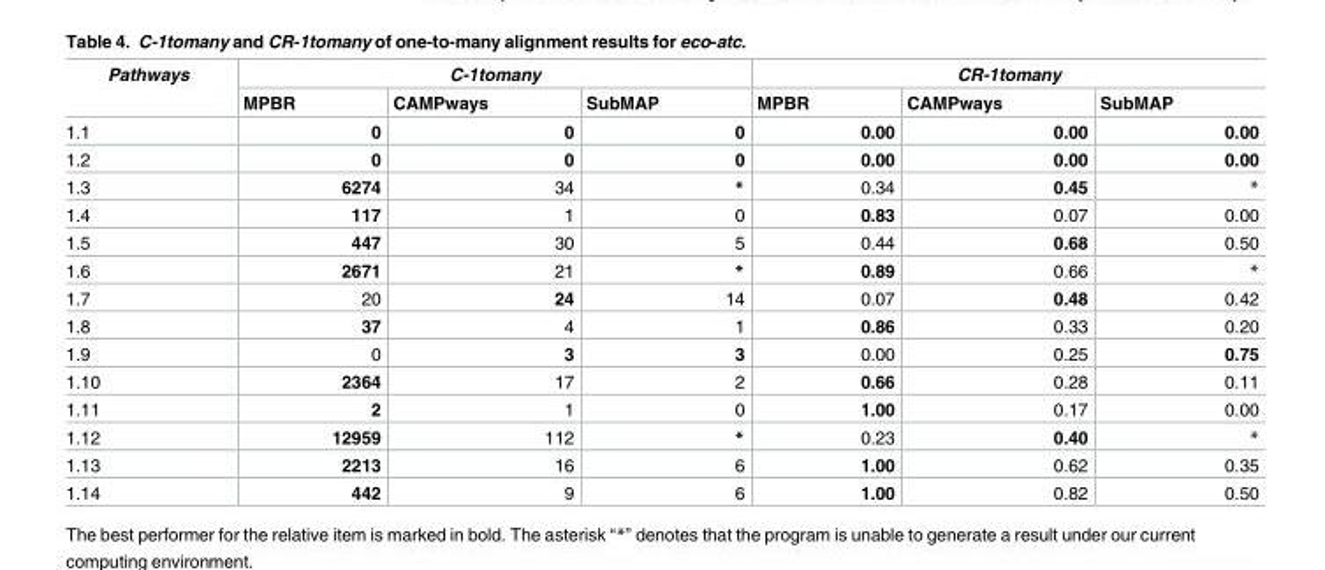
<table><thead><tr><td rowspan="2">Pathways</td><td colspan="3">C-1tomany</td><td colspan="3">CR-1tomany</td></tr><tr><td>MPBR</td><td>CAMPways</td><td>SubMAP</td><td>MPBR</td><td>CAMPways</td><td>SubMAP</td></tr></thead><tbody><tr><td>1.1</td><td>0</td><td>0</td><td>0</td><td>0.00</td><td>0.00</td><td>0.00</td></tr><tr><td>1.2</td><td>0</td><td>0</td><td>0</td><td>0.00</td><td>0.00</td><td>0.00</td></tr><tr><td>1.3</td><td>6274</td><td>34</td><td>*</td><td>0.34</td><td>0.45</td><td>*</td></tr><tr><td>1.4</td><td>117</td><td>1</td><td>0</td><td>0.83</td><td>0.07</td><td>0.00</td></tr><tr><td>1.5</td><td>447</td><td>30</td><td>5</td><td>0.44</td><td>0.68</td><td>0.50</td></tr><tr><td>1.6</td><td>2671</td><td>21</td><td>*</td><td>0.89</td><td>0.66</td><td>*</td></tr><tr><td>1.7</td><td>20</td><td>24</td><td>14</td><td>0.07</td><td>0.48</td><td>0.42</td></tr><tr><td>1.8</td><td>37</td><td>4</td><td>1</td><td>0.86</td><td>0.33</td><td>0.20</td></tr><tr><td>1.9</td><td>0</td><td>3</td><td>3</td><td>0.00</td><td>0.25</td><td>0.75</td></tr><tr><td>1.10</td><td>2364</td><td>17</td><td>2</td><td>0.66</td><td>0.28</td><td>0.11</td></tr><tr><td>1.11</td><td>2</td><td>1</td><td>0</td><td>1.00</td><td>0.17</td><td>0.00</td></tr><tr><td>1.12</td><td>12959</td><td>112</td><td>*</td><td>0.23</td><td>0.40</td><td>*</td></tr><tr><td>1.13</td><td>2213</td><td>16</td><td>6</td><td>1.00</td><td>0.62</td><td>0.35</td></tr><tr><td>1.14</td><td>442</td><td>9</td><td>6</td><td>1.00</td><td>0.82</td><td>0.50</td></tr></tbody></table>